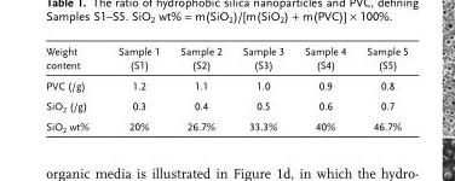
<table><thead><tr><td>Weight content</td><td>Sample 1 (S1)</td><td>Sample 2 (S2)</td><td>Sample 3 (S3)</td><td>Sample 4 (S4)</td><td>Sample 5 (S5)</td></tr></thead><tbody><tr><td>PVC (/g)</td><td>1.2</td><td>1.1</td><td>1.0</td><td>0.9</td><td>0.8</td></tr><tr><td>SiO<sub>2</sub> (/g)</td><td>0.3</td><td>0.4</td><td>0.5</td><td>0.6</td><td>0.7</td></tr><tr><td>SiO<sub>2</sub> wt%</td><td>20%</td><td>26.7%</td><td>33.3%</td><td>40%</td><td>46.7%</td></tr></tbody></table>